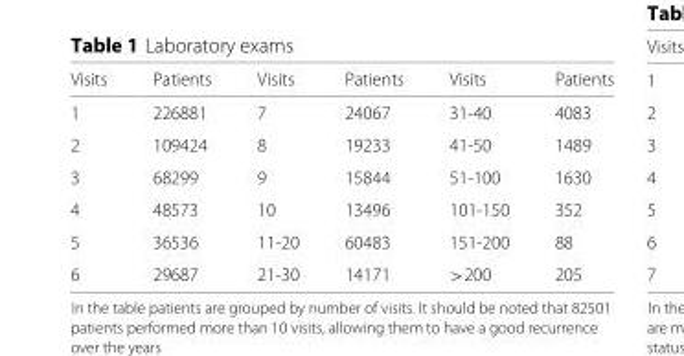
<table><thead><tr><td>Visits</td><td>Patients</td><td>Visits</td><td>Patients</td><td>Visits</td><td>Patients</td></tr></thead><tbody><tr><td>1</td><td>226881</td><td>7</td><td>24067</td><td>31-40</td><td>4083</td></tr><tr><td>2</td><td>109424</td><td>8</td><td>19233</td><td>41-50</td><td>1489</td></tr><tr><td>3</td><td>68299</td><td>9</td><td>15844</td><td>51-100</td><td>1630</td></tr><tr><td>4</td><td>48573</td><td>10</td><td>13496</td><td>101-150</td><td>352</td></tr><tr><td>5</td><td>36536</td><td>11-20</td><td>60483</td><td>151-200</td><td>88</td></tr><tr><td>6</td><td>29687</td><td>21-30</td><td>14171</td><td>&gt;200</td><td>205</td></tr></tbody></table>